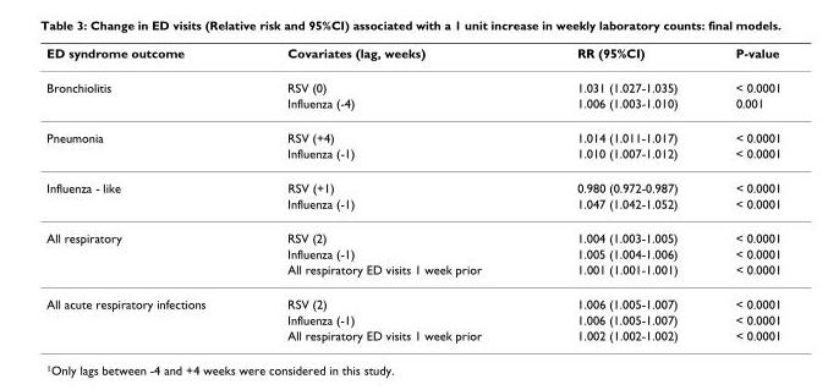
<table><thead><tr><td>ED syndrome outcome</td><td>Covariates (lag, weeks)</td><td>RR (95%CI)</td><td>P-value</td></tr></thead><tbody><tr><td rowspan="2">Bronchiolitis</td><td>RSV (0)</td><td>1.031 (1.027-1.035)</td><td>&lt; 0.0001</td></tr><tr><td>Influenza (-4)</td><td>1.006 (1.003-1.010)</td><td>0.001</td></tr><tr><td rowspan="2">Pneumonia</td><td>RSV (+4)</td><td>1.014 (1.011-1.017)</td><td>&lt; 0.0001</td></tr><tr><td>Influenza (-1)</td><td>1.010 (1.007-1.012)</td><td>&lt; 0.0001</td></tr><tr><td rowspan="2">Influenza - like</td><td>RSV (+1)</td><td>0.980 (0.972-0.987)</td><td>&lt; 0.0001</td></tr><tr><td>Influenza (-1)</td><td>1.047 (1.042-1.052)</td><td>&lt; 0.0001</td></tr><tr><td rowspan="3">All respiratory</td><td>RSV (2)</td><td>1.004 (1.003-1.005)</td><td>&lt; 0.0001</td></tr><tr><td>Influenza (-1)</td><td>1.005 (1.004-1.006)</td><td>&lt; 0.0001</td></tr><tr><td>All respiratory ED visits 1 week prior</td><td>1.001 (1.001-1.001)</td><td>&lt; 0.0001</td></tr><tr><td rowspan="3">All acute respiratory infections</td><td>RSV (2)</td><td>1.006 (1.005-1.007)</td><td>&lt; 0.0001</td></tr><tr><td>Influenza (-1)</td><td>1.006 (1.005-1.007)</td><td>&lt; 0.0001</td></tr><tr><td>All respiratory ED visits 1 week prior</td><td>1.002 (1.002-1.002)</td><td>&lt; 0.0001</td></tr></tbody></table>